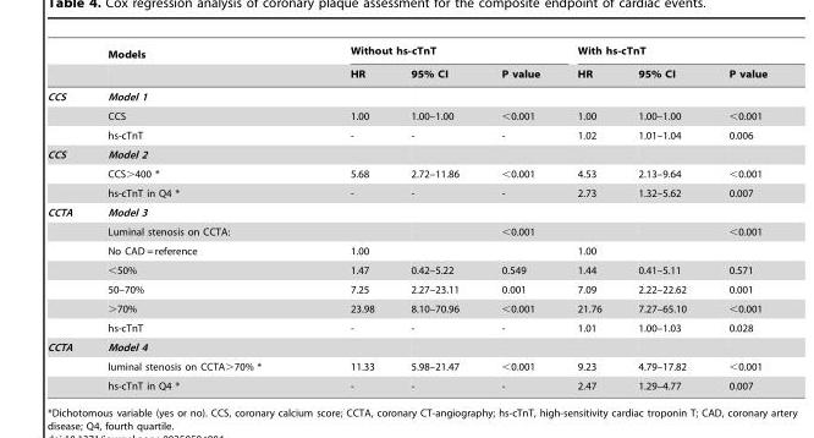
<table><thead><tr><td rowspan="2"></td><td rowspan="2">Models</td><td colspan="3">Without hs-cTnT</td><td colspan="3">With hs-cTnT</td></tr><tr><td>HR</td><td>95% CI</td><td>P value</td><td>HR</td><td>95% CI</td><td>P value</td></tr></thead><tbody><tr><td rowspan="3">CCS</td><td>Model 1</td><td></td><td></td><td></td><td></td><td></td><td></td></tr><tr><td>CCS</td><td>1.00</td><td>1.00–1.00</td><td>&lt;0.001</td><td>1.00</td><td>1.00–1.00</td><td>&lt;0.001</td></tr><tr><td>hs-cTnT</td><td>-</td><td>-</td><td>-</td><td>1.02</td><td>1.01–1.04</td><td>0.006</td></tr><tr><td rowspan="3">CCS</td><td>Model 2</td><td></td><td></td><td></td><td></td><td></td><td></td></tr><tr><td>CCS&gt;400 *</td><td>5.68</td><td>2.72–11.86</td><td>&lt;0.001</td><td>4.53</td><td>2.13–9.64</td><td>&lt;0.001</td></tr><tr><td>hs-cTnT in Q4 *</td><td>-</td><td>-</td><td>-</td><td>2.73</td><td>1.32–5.62</td><td>0.007</td></tr><tr><td rowspan="7">CCTA</td><td>Model 3</td><td></td><td></td><td></td><td></td><td></td><td></td></tr><tr><td>Luminal stenosis on CCTA:</td><td></td><td></td><td>&lt;0.001</td><td></td><td></td><td>&lt;0.001</td></tr><tr><td>No CAD = reference</td><td>1.00</td><td></td><td></td><td>1.00</td><td></td><td></td></tr><tr><td>&lt;50%</td><td>1.47</td><td>0.42–5.22</td><td>0.549</td><td>1.44</td><td>0.41–5.11</td><td>0.571</td></tr><tr><td>50–70%</td><td>7.25</td><td>2.27–23.11</td><td>0.001</td><td>7.09</td><td>2.22–22.62</td><td>0.001</td></tr><tr><td>&gt;70%</td><td>23.98</td><td>8.10–70.96</td><td>&lt;0.001</td><td>21.76</td><td>7.27–65.10</td><td>&lt;0.001</td></tr><tr><td>hs-cTnT</td><td>-</td><td>-</td><td>-</td><td>1.01</td><td>1.00–1.03</td><td>0.028</td></tr><tr><td rowspan="3">CCTA</td><td>Model 4</td><td></td><td></td><td></td><td></td><td></td><td></td></tr><tr><td>luminal stenosis on CCTA&gt;70% *</td><td>11.33</td><td>5.98–21.47</td><td>&lt;0.001</td><td>9.23</td><td>4.79–17.82</td><td>&lt;0.001</td></tr><tr><td>hs-cTnT in Q4 *</td><td>-</td><td>-</td><td>-</td><td>2.47</td><td>1.29–4.77</td><td>0.007</td></tr></tbody></table>